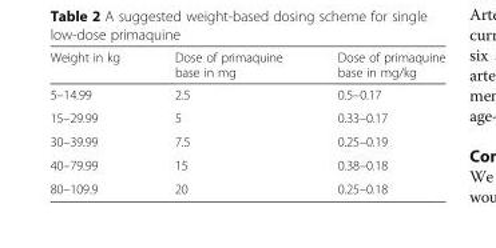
<table><thead><tr><td>Weight in kg</td><td>Dose of primaquine base in mg</td><td>Dose of primaquine base in mg/kg</td></tr></thead><tbody><tr><td>5–14.99</td><td>2.5</td><td>0.5–0.17</td></tr><tr><td>15–29.99</td><td>5</td><td>0.33–0.17</td></tr><tr><td>30–39.99</td><td>7.5</td><td>0.25–0.19</td></tr><tr><td>40–79.99</td><td>15</td><td>0.38–0.18</td></tr><tr><td>80–109.9</td><td>20</td><td>0.25–0.18</td></tr></tbody></table>